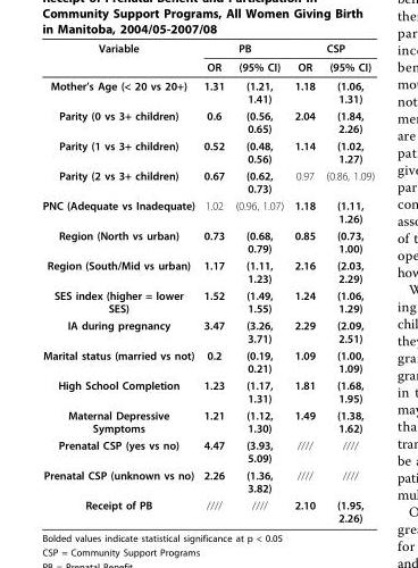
<table><thead><tr><td rowspan="2">Variable</td><td colspan="2">PB</td><td colspan="2">CSP</td></tr><tr><td>OR</td><td>(95% CI)</td><td>OR</td><td>(95% CI)</td></tr></thead><tbody><tr><td>Mother’s Age (&lt; 20 vs 20+)</td><td>1.31</td><td>(1.21, 1.41)</td><td>1.18</td><td>(1.06, 1.31)</td></tr><tr><td>Parity (0 vs 3+ children)</td><td>0.6</td><td>(0.56, 0.65)</td><td>2.04</td><td>(1.84, 2.26)</td></tr><tr><td>Parity (1 vs 3+ children)</td><td>0.52</td><td>(0.48, 0.56)</td><td>1.14</td><td>(1.02, 1.27)</td></tr><tr><td>Parity (2 vs 3+ children)</td><td>0.67</td><td>(0.62, 0.73)</td><td>0.97</td><td>(0.86, 1.09)</td></tr><tr><td>PNC (Adequate vs Inadequate)</td><td>1.02</td><td>(0.96, 1.07)</td><td>1.18</td><td>(1.11, 1.26)</td></tr><tr><td>Region (North vs urban)</td><td>0.73</td><td>(0.68, 0.79)</td><td>0.85</td><td>(0.73, 1.00)</td></tr><tr><td>Region (South/Mid vs urban)</td><td>1.17</td><td>(1.11, 1.23)</td><td>2.16</td><td>(2.03, 2.29)</td></tr><tr><td>SES index (higher = lower SES)</td><td>1.52</td><td>(1.49, 1.55)</td><td>1.24</td><td>(1.06, 1.29)</td></tr><tr><td>IA during pregnancy</td><td>3.47</td><td>(3.26, 3.71)</td><td>2.29</td><td>(2.09, 2.51)</td></tr><tr><td>Marital status (married vs not)</td><td>0.2</td><td>(0.19, 0.21)</td><td>1.09</td><td>(1.00, 1.09)</td></tr><tr><td>High School Completion</td><td>1.23</td><td>(1.17, 1.31)</td><td>1.81</td><td>(1.68, 1.95)</td></tr><tr><td>Maternal Depressive Symptoms</td><td>1.21</td><td>(1.12, 1.30)</td><td>1.49</td><td>(1.38, 1.62)</td></tr><tr><td>Prenatal CSP (yes vs no)</td><td>4.47</td><td>(3.93, 5.09)</td><td>////</td><td>////</td></tr><tr><td>Prenatal CSP (unknown vs no)</td><td>2.26</td><td>(1.36, 3.82)</td><td>////</td><td>////</td></tr><tr><td>Receipt of PB</td><td>////</td><td>////</td><td>2.10</td><td>(1.95, 2.26)</td></tr></tbody></table>